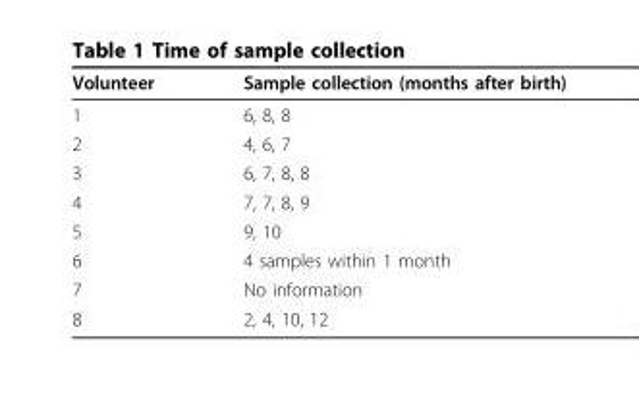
<table><thead><tr><td>Volunteer</td><td>Sample collection (months after birth)</td></tr></thead><tbody><tr><td>1</td><td>6, 8, 8</td></tr><tr><td>2</td><td>4, 6, 7</td></tr><tr><td>3</td><td>6, 7, 8, 8</td></tr><tr><td>4</td><td>7, 7, 8, 9</td></tr><tr><td>5</td><td>9, 10</td></tr><tr><td>6</td><td>4 samples within 1 month</td></tr><tr><td>7</td><td>No information</td></tr><tr><td>8</td><td>2, 4, 10, 12</td></tr></tbody></table>